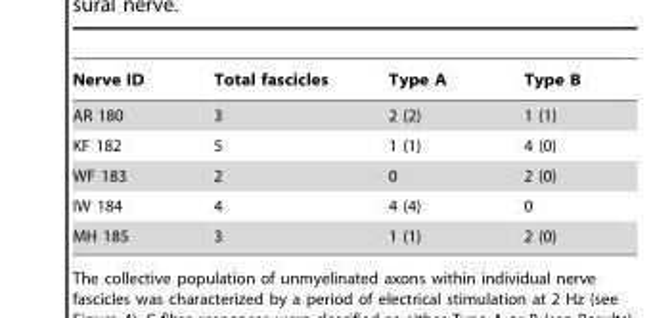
<table><thead><tr><td>Nerve ID</td><td>Total fascicles</td><td>Type A</td><td>Type B</td></tr></thead><tbody><tr><td>AR 180</td><td>3</td><td>2 (2)</td><td>1 (1)</td></tr><tr><td>KF 182</td><td>5</td><td>1 (1)</td><td>4 (0)</td></tr><tr><td>WF 183</td><td>2</td><td>0</td><td>2 (0)</td></tr><tr><td>IW 184</td><td>4</td><td>4 (4)</td><td>0</td></tr><tr><td>MH 185</td><td>3</td><td>1 (1)</td><td>2 (0)</td></tr></tbody></table>